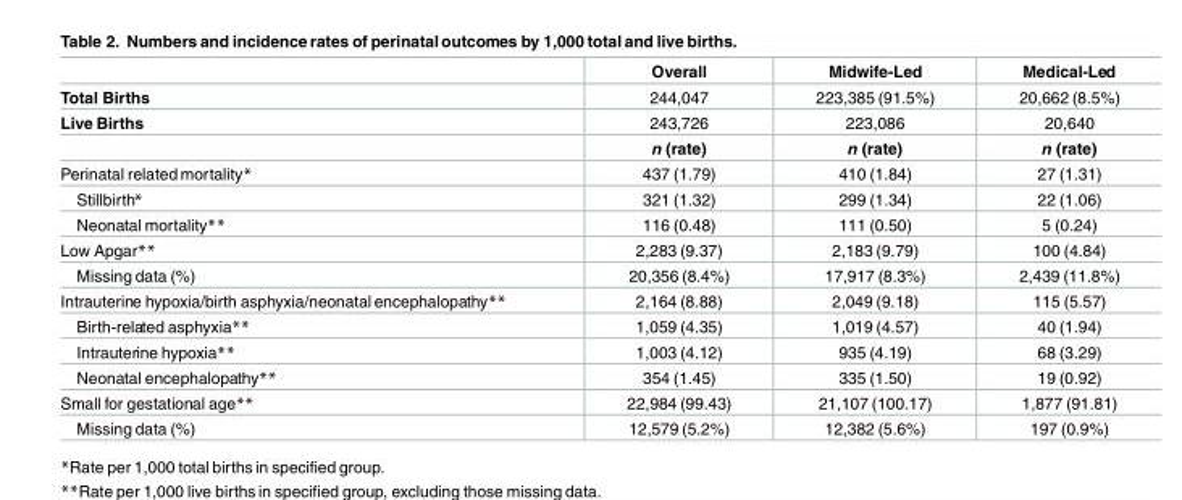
<table><thead><tr><td></td><td>Overall</td><td>Midwife-Led</td><td>Medical-Led</td></tr></thead><tbody><tr><td>Total Births</td><td>244,047</td><td>223,385 (91.5%)</td><td>20,662 (8.5%)</td></tr><tr><td rowspan="2">Live Births</td><td>243,726</td><td>223,086</td><td>20,640</td></tr><tr><td>n (rate)</td><td>n (rate)</td><td>n (rate)</td></tr><tr><td>Perinatal related mortality*</td><td>437 (1.79)</td><td>410 (1.84)</td><td>27 (1.31)</td></tr><tr><td>Stillbirth*</td><td>321 (1.32)</td><td>299 (1.34)</td><td>22 (1.06)</td></tr><tr><td>Neonatal mortality**</td><td>116 (0.48)</td><td>111 (0.50)</td><td>5 (0.24)</td></tr><tr><td>Low Apgar**</td><td>2,283 (9.37)</td><td>2,183 (9.79)</td><td>100 (4.84)</td></tr><tr><td>Missing data (%)</td><td>20,356 (8.4%)</td><td>17,917 (8.3%)</td><td>2,439 (11.8%)</td></tr><tr><td>Intrauterine hypoxia/birth asphyxia/neonatal encephalopathy**</td><td>2,164 (8.88)</td><td>2,049 (9.18)</td><td>115 (5.57)</td></tr><tr><td>Birth-related asphyxia**</td><td>1,059 (4.35)</td><td>1,019 (4.57)</td><td>40 (1.94)</td></tr><tr><td>Intrauterine hypoxia**</td><td>1,003 (4.12)</td><td>935 (4.19)</td><td>68 (3.29)</td></tr><tr><td>Neonatal encephalopathy**</td><td>354 (1.45)</td><td>335 (1.50)</td><td>19 (0.92)</td></tr><tr><td>Small for gestational age**</td><td>22,984 (99.43)</td><td>21,107 (100.17)</td><td>1,877 (91.81)</td></tr><tr><td>Missing data (%)</td><td>12,579 (5.2%)</td><td>12,382 (5.6%)</td><td>197 (0.9%)</td></tr></tbody></table>